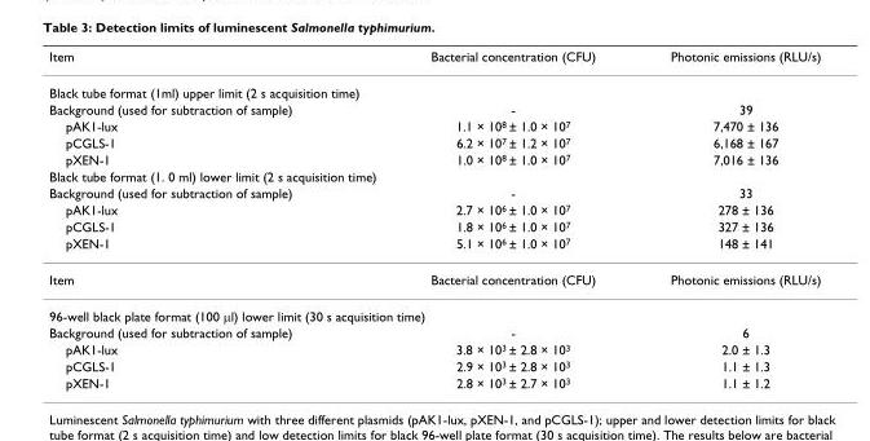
<table><thead><tr><td>Item</td><td>Bacterial concentration (CFU)</td><td>Photonic emissions (RLU/s)</td></tr></thead><tbody><tr><td colspan="3">Black tube format (1ml) upper limit (2 s acquisition time)</td></tr><tr><td>Background (used for subtraction of sample)</td><td>-</td><td>39</td></tr><tr><td>pAK1-lux</td><td>1.1 × 10<sup>8</sup> ± 1.0 × 10<sup>7</sup></td><td>7,470 ± 136</td></tr><tr><td>pCGLS-1</td><td>6.2 × 10<sup>7</sup> ± 1.2 × 10<sup>7</sup></td><td>6,168 ± 167</td></tr><tr><td>pXEN-1</td><td>1.0 × 10<sup>8</sup> ± 1.0 × 10<sup>7</sup></td><td>7,016 ± 136</td></tr><tr><td colspan="3">Black tube format (1. 0 ml) lower limit (2 s acquisition time)</td></tr><tr><td>Background (used for subtraction of sample)</td><td>-</td><td>33</td></tr><tr><td>pAK1-lux</td><td>2.7 × 10<sup>6</sup> ± 1.0 × 10<sup>7</sup></td><td>278 ± 136</td></tr><tr><td>pCGLS-1</td><td>1.8 × 10<sup>6</sup> ± 1.0 × 10<sup>7</sup></td><td>327 ± 136</td></tr><tr><td>pXEN-1</td><td>5.1 × 10<sup>6</sup> ± 1.0 × 10<sup>7</sup></td><td>148 ± 141</td></tr><tr><td>Item</td><td>Bacterial concentration (CFU)</td><td>Photonic emissions (RLU/s)</td></tr><tr><td colspan="3">96-well black plate format (100 μl) lower limit (30 s acquisition time)</td></tr><tr><td>Background (used for subtraction of sample)</td><td>-</td><td>6</td></tr><tr><td>pAK1-lux</td><td>3.8 × 10<sup>3</sup> ± 2.8 × 10<sup>3</sup></td><td>2.0 ± 1.3</td></tr><tr><td>pCGLS-1</td><td>2.9 × 10<sup>3</sup> ± 2.8 × 10<sup>3</sup></td><td>1.1 ± 1.3</td></tr><tr><td>pXEN-1</td><td>2.8 × 10<sup>3</sup> ± 2.7 × 10<sup>3</sup></td><td>1.1 ± 1.2</td></tr></tbody></table>